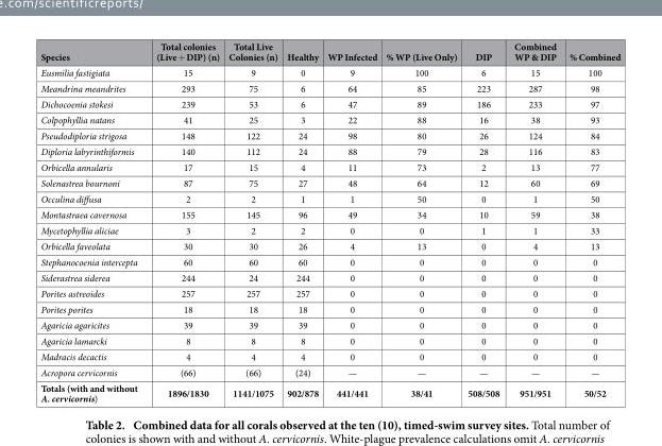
<table><thead><tr><td>Species</td><td>Total colonies (Live + DIP) (n)</td><td>Total Live Colonies (n)</td><td>Healthy</td><td>WP Infected</td><td>% WP (Live Only)</td><td>DIP</td><td>Combined WP &amp; DIP</td><td>% Combined</td></tr></thead><tbody><tr><td>Eusmilia fastigiata</td><td>15</td><td>9</td><td>0</td><td>9</td><td>100</td><td>6</td><td>15</td><td>100</td></tr><tr><td>Meandrina meandrites</td><td>293</td><td>75</td><td>6</td><td>64</td><td>85</td><td>223</td><td>287</td><td>98</td></tr><tr><td>Dichocoenia stokesi</td><td>239</td><td>53</td><td>6</td><td>47</td><td>89</td><td>186</td><td>233</td><td>97</td></tr><tr><td>Colpophyllia natans</td><td>41</td><td>25</td><td>3</td><td>22</td><td>88</td><td>16</td><td>38</td><td>93</td></tr><tr><td>Pseudodiploria strigosa</td><td>148</td><td>122</td><td>24</td><td>98</td><td>80</td><td>26</td><td>124</td><td>84</td></tr><tr><td>Diploria labyrinthiformis</td><td>140</td><td>112</td><td>24</td><td>88</td><td>79</td><td>28</td><td>116</td><td>83</td></tr><tr><td>Orbicella annularis</td><td>17</td><td>15</td><td>4</td><td>11</td><td>73</td><td>2</td><td>13</td><td>77</td></tr><tr><td>Solenastrea bournoni</td><td>87</td><td>75</td><td>27</td><td>48</td><td>64</td><td>12</td><td>60</td><td>69</td></tr><tr><td>Occulina diffusa</td><td>2</td><td>2</td><td>1</td><td>1</td><td>50</td><td>0</td><td>1</td><td>50</td></tr><tr><td>Montastraea cavernosa</td><td>155</td><td>145</td><td>96</td><td>49</td><td>34</td><td>10</td><td>59</td><td>38</td></tr><tr><td>Mycetophyllia aliciae</td><td>3</td><td>2</td><td>2</td><td>0</td><td>0</td><td>1</td><td>1</td><td>33</td></tr><tr><td>Orbicella faveolata</td><td>30</td><td>30</td><td>26</td><td>4</td><td>13</td><td>0</td><td>4</td><td>13</td></tr><tr><td>Stephanocoenia intercepta</td><td>60</td><td>60</td><td>60</td><td>0</td><td>0</td><td>0</td><td>0</td><td>0</td></tr><tr><td>Siderastrea siderea</td><td>244</td><td>24</td><td>244</td><td>0</td><td>0</td><td>0</td><td>0</td><td>0</td></tr><tr><td>Porites astreoides</td><td>257</td><td>257</td><td>257</td><td>0</td><td>0</td><td>0</td><td>0</td><td>0</td></tr><tr><td>Porites porites</td><td>18</td><td>18</td><td>18</td><td>0</td><td>0</td><td>0</td><td>0</td><td>0</td></tr><tr><td>Agaricia agaricites</td><td>39</td><td>39</td><td>39</td><td>0</td><td>0</td><td>0</td><td>0</td><td>0</td></tr><tr><td>Agaricia lamarcki</td><td>8</td><td>8</td><td>8</td><td>0</td><td>0</td><td>0</td><td>0</td><td>0</td></tr><tr><td>Madracis decactis</td><td>4</td><td>4</td><td>4</td><td>0</td><td>0</td><td>0</td><td>0</td><td>0</td></tr><tr><td>Acropora cervicornis</td><td>(66)</td><td>(66)</td><td>(24)</td><td>—</td><td>—</td><td>—</td><td>—</td><td>—</td></tr><tr><td>Totals (with and without A. cervicornis)</td><td>1896/1830</td><td>1141/1075</td><td>902/878</td><td>441/441</td><td>38/41</td><td>508/508</td><td>951/951</td><td>50/52</td></tr></tbody></table>